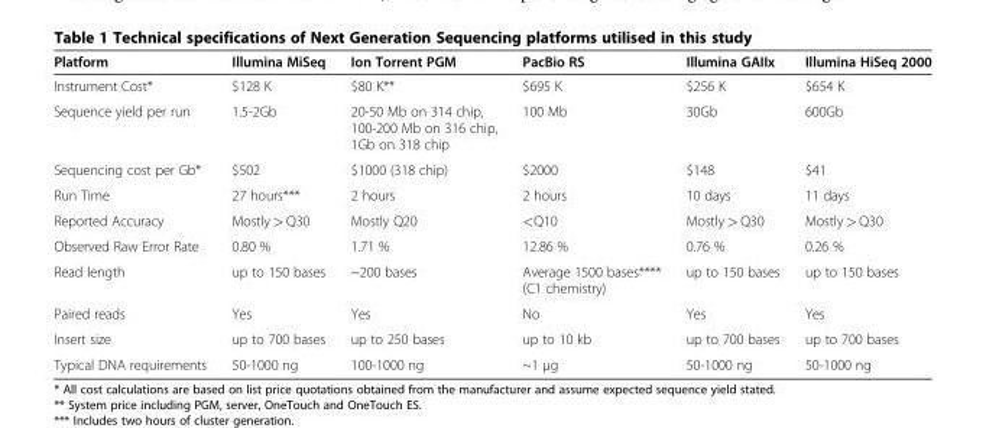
<table><thead><tr><td>Platform</td><td>Illumina MiSeq</td><td>Ion Torrent PGM</td><td>PacBio RS</td><td>Illumina GAIIx</td><td>Illumina HiSeq 2000</td></tr></thead><tbody><tr><td>Instrument Cost*</td><td>$128 K</td><td>$80 K**</td><td>$695 K</td><td>$256 K</td><td>$654 K</td></tr><tr><td>Sequence yield per run</td><td>1.5-2Gb</td><td>20-50 Mb on 314 chip, 100-200 Mb on 316 chip, 1Gb on 318 chip</td><td>100 Mb</td><td>30Gb</td><td>600Gb</td></tr><tr><td>Sequencing cost per Gb*</td><td>$502</td><td>$1000 (318 chip)</td><td>$2000</td><td>$148</td><td>$41</td></tr><tr><td>Run Time</td><td>27 hours***</td><td>2 hours</td><td>2 hours</td><td>10 days</td><td>11 days</td></tr><tr><td>Reported Accuracy</td><td>Mostly &gt; Q30</td><td>Mostly Q20</td><td>&lt;Q10</td><td>Mostly &gt; Q30</td><td>Mostly &gt; Q30</td></tr><tr><td>Observed Raw Error Rate</td><td>0.80 %</td><td>1.71 %</td><td>12.86 %</td><td>0.76 %</td><td>0.26 %</td></tr><tr><td>Read length</td><td>up to 150 bases</td><td>~200 bases</td><td>Average 1500 bases**** (C1 chemistry)</td><td>up to 150 bases</td><td>up to 150 bases</td></tr><tr><td>Paired reads</td><td>Yes</td><td>Yes</td><td>No</td><td>Yes</td><td>Yes</td></tr><tr><td>Insert size</td><td>up to 700 bases</td><td>up to 250 bases</td><td>up to 10 kb</td><td>up to 700 bases</td><td>up to 700 bases</td></tr><tr><td>Typical DNA requirements</td><td>50-1000 ng</td><td>100-1000 ng</td><td>~1 μg</td><td>50-1000 ng</td><td>50-1000 ng</td></tr></tbody></table>